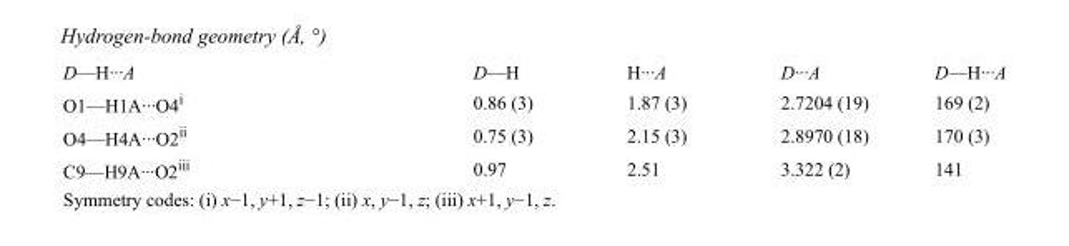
<table><tbody><tr><td>D—H···A</td><td>D—H</td><td>H···A</td><td>D···A</td><td>D—H···A</td></tr><tr><td>O1—H1A···O4<sup>i</sup></td><td>0.86 (3)</td><td>1.87 (3)</td><td>2.7204 (19)</td><td>169 (2)</td></tr><tr><td>O4—H4A···O2<sup>ii</sup></td><td>0.75 (3)</td><td>2.15 (3)</td><td>2.8970 (18)</td><td>170 (3)</td></tr><tr><td>C9—H9A···O2<sup>iii</sup></td><td>0.97</td><td>2.51</td><td>3.322 (2)</td><td>141</td></tr></tbody></table>